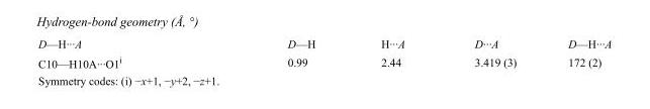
<table><tbody><tr><td>D—H···A</td><td>D—H</td><td>H···A</td><td>D···A</td><td>D—H···A</td></tr><tr><td>C10—H10A···O1<sup>i</sup></td><td>0.99</td><td>2.44</td><td>3.419 (3)</td><td>172 (2)</td></tr></tbody></table>